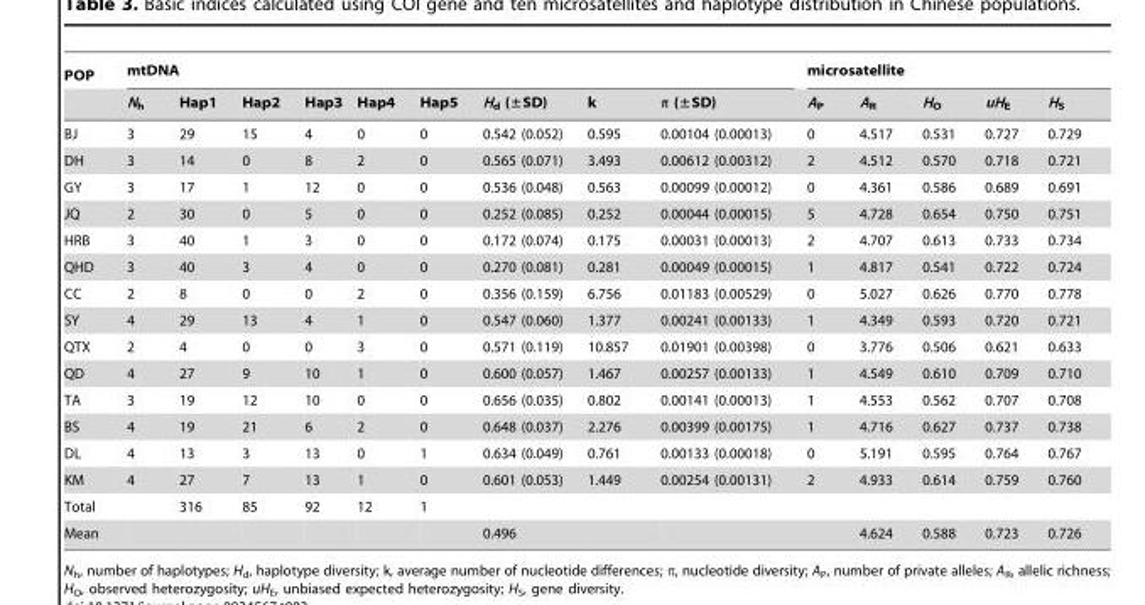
<table><thead><tr><td rowspan="2">POP</td><td colspan="9">mtDNA</td><td colspan="5">microsatellite</td></tr><tr><td>N<sub>h</sub></td><td>Hap1</td><td>Hap2</td><td>Hap3</td><td>Hap4</td><td>Hap5</td><td>H<sub>d</sub> (±SD)</td><td>k</td><td>π (±SD)</td><td>A<sub>P</sub></td><td>A<sub>R</sub></td><td>H<sub>O</sub></td><td>uH<sub>E</sub></td><td>H<sub>S</sub></td></tr></thead><tbody><tr><td>BJ</td><td>3</td><td>29</td><td>15</td><td>4</td><td>0</td><td>0</td><td>0.542 (0.052)</td><td>0.595</td><td>0.00104 (0.00013)</td><td>0</td><td>4.517</td><td>0.531</td><td>0.727</td><td>0.729</td></tr><tr><td>DH</td><td>3</td><td>14</td><td>0</td><td>8</td><td>2</td><td>0</td><td>0.565 (0.071)</td><td>3.493</td><td>0.00612 (0.00312)</td><td>2</td><td>4.512</td><td>0.570</td><td>0.718</td><td>0.721</td></tr><tr><td>GY</td><td>3</td><td>17</td><td>1</td><td>12</td><td>0</td><td>0</td><td>0.536 (0.048)</td><td>0.563</td><td>0.00099 (0.00012)</td><td>0</td><td>4.361</td><td>0.586</td><td>0.689</td><td>0.691</td></tr><tr><td>JQ</td><td>2</td><td>30</td><td>0</td><td>5</td><td>0</td><td>0</td><td>0.252 (0.085)</td><td>0.252</td><td>0.00044 (0.00015)</td><td>5</td><td>4.728</td><td>0.654</td><td>0.750</td><td>0.751</td></tr><tr><td>HRB</td><td>3</td><td>40</td><td>1</td><td>3</td><td>0</td><td>0</td><td>0.172 (0.074)</td><td>0.175</td><td>0.00031 (0.00013)</td><td>2</td><td>4.707</td><td>0.613</td><td>0.733</td><td>0.734</td></tr><tr><td>QHD</td><td>3</td><td>40</td><td>3</td><td>4</td><td>0</td><td>0</td><td>0.270 (0.081)</td><td>0.281</td><td>0.00049 (0.00015)</td><td>1</td><td>4.817</td><td>0.541</td><td>0.722</td><td>0.724</td></tr><tr><td>CC</td><td>2</td><td>8</td><td>0</td><td>0</td><td>2</td><td>0</td><td>0.356 (0.159)</td><td>6.756</td><td>0.01183 (0.00529)</td><td>0</td><td>5.027</td><td>0.626</td><td>0.770</td><td>0.778</td></tr><tr><td>SY</td><td>4</td><td>29</td><td>13</td><td>4</td><td>1</td><td>0</td><td>0.547 (0.060)</td><td>1.377</td><td>0.00241 (0.00133)</td><td>1</td><td>4.349</td><td>0.593</td><td>0.720</td><td>0.721</td></tr><tr><td>QTX</td><td>2</td><td>4</td><td>0</td><td>0</td><td>3</td><td>0</td><td>0.571 (0.119)</td><td>10.857</td><td>0.01901 (0.00398)</td><td>0</td><td>3.776</td><td>0.506</td><td>0.621</td><td>0.633</td></tr><tr><td>QD</td><td>4</td><td>27</td><td>9</td><td>10</td><td>1</td><td>0</td><td>0.600 (0.057)</td><td>1.467</td><td>0.00257 (0.00133)</td><td>1</td><td>4.549</td><td>0.610</td><td>0.709</td><td>0.710</td></tr><tr><td>TA</td><td>3</td><td>19</td><td>12</td><td>10</td><td>0</td><td>0</td><td>0.656 (0.035)</td><td>0.802</td><td>0.00141 (0.00013)</td><td>1</td><td>4.553</td><td>0.562</td><td>0.707</td><td>0.708</td></tr><tr><td>BS</td><td>4</td><td>19</td><td>21</td><td>6</td><td>2</td><td>0</td><td>0.648 (0.037)</td><td>2.276</td><td>0.00399 (0.00175)</td><td>1</td><td>4.716</td><td>0.627</td><td>0.737</td><td>0.738</td></tr><tr><td>DL</td><td>4</td><td>13</td><td>3</td><td>13</td><td>0</td><td>1</td><td>0.634 (0.049)</td><td>0.761</td><td>0.00133 (0.00018)</td><td>0</td><td>5.191</td><td>0.595</td><td>0.764</td><td>0.767</td></tr><tr><td>KM</td><td>4</td><td>27</td><td>7</td><td>13</td><td>1</td><td>0</td><td>0.601 (0.053)</td><td>1.449</td><td>0.00254 (0.00131)</td><td>2</td><td>4.933</td><td>0.614</td><td>0.759</td><td>0.760</td></tr><tr><td>Total</td><td></td><td>316</td><td>85</td><td>92</td><td>12</td><td>1</td><td></td><td></td><td></td><td></td><td></td><td></td><td></td><td></td></tr><tr><td>Mean</td><td></td><td></td><td></td><td></td><td></td><td></td><td>0.496</td><td></td><td></td><td></td><td>4.624</td><td>0.588</td><td>0.723</td><td>0.726</td></tr></tbody></table>